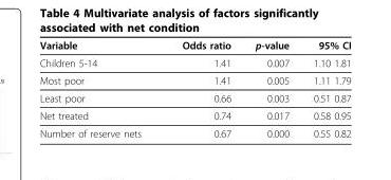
<table><thead><tr><td>Variable</td><td>Odds ratio</td><td>p-value</td><td>95% CI</td></tr></thead><tbody><tr><td>Children 5-14</td><td>1.41</td><td>0.007</td><td>1.10 1.81</td></tr><tr><td>Most poor</td><td>1.41</td><td>0.005</td><td>1.11 1.79</td></tr><tr><td>Least poor</td><td>0.66</td><td>0.003</td><td>0.51 0.87</td></tr><tr><td>Net treated</td><td>0.74</td><td>0.017</td><td>0.58 0.95</td></tr><tr><td>Number of reserve nets</td><td>0.67</td><td>0.000</td><td>0.55 0.82</td></tr></tbody></table>